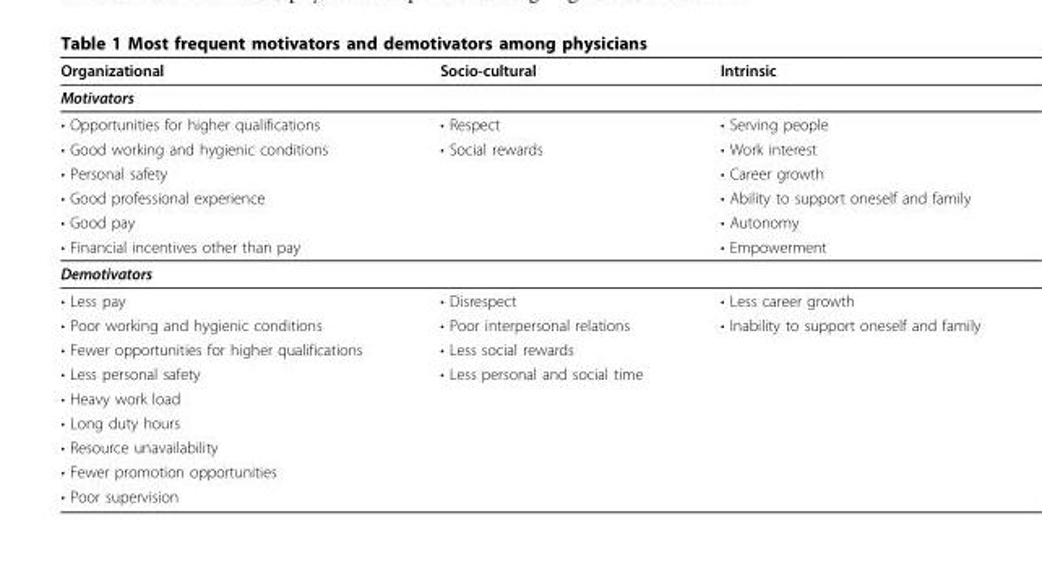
<table><thead><tr><td>Organizational</td><td>Socio-cultural</td><td>Intrinsic</td></tr></thead><tbody><tr><td colspan="3">Motivators</td></tr><tr><td>• Opportunities for higher qualifications</td><td>• Respect</td><td>• Serving people</td></tr><tr><td>• Good working and hygienic conditions</td><td>• Social rewards</td><td>• Work interest</td></tr><tr><td>• Personal safety</td><td></td><td>• Career growth</td></tr><tr><td>• Good professional experience</td><td></td><td>• Ability to support oneself and family</td></tr><tr><td>• Good pay</td><td></td><td>• Autonomy</td></tr><tr><td>• Financial incentives other than pay</td><td></td><td>• Empowerment</td></tr><tr><td colspan="3">Demotivators</td></tr><tr><td>• Less pay</td><td>• Disrespect</td><td>• Less career growth</td></tr><tr><td>• Poor working and hygienic conditions</td><td>• Poor interpersonal relations</td><td>• Inability to support oneself and family</td></tr><tr><td>• Fewer opportunities for higher qualifications</td><td>• Less social rewards</td><td></td></tr><tr><td>• Less personal safety</td><td>• Less personal and social time</td><td></td></tr><tr><td colspan="3">• Heavy work load</td></tr><tr><td colspan="3">• Long duty hours</td></tr><tr><td colspan="3">• Resource unavailability</td></tr><tr><td colspan="3">• Fewer promotion opportunities</td></tr><tr><td>• Poor supervision</td><td></td><td></td></tr></tbody></table>